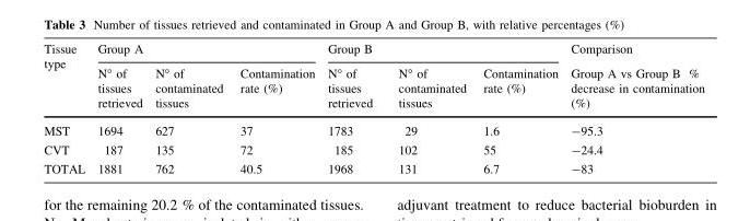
<table><thead><tr><td rowspan="2">Tissue type</td><td colspan="3">Group A</td><td colspan="3">Group B</td><td rowspan="2">Comparison Group A vs Group B % decrease in contamination (%)</td></tr><tr><td>N° of tissues retrieved</td><td>N° of contaminated tissues</td><td>Contamination rate (%)</td><td>N° of tissues retrieved</td><td>N° of contaminated tissues</td><td>Contamination rate (%)</td></tr></thead><tbody><tr><td>MST</td><td>1694</td><td>627</td><td>37</td><td>1783</td><td>29</td><td>1.6</td><td>-95.3</td></tr><tr><td>CVT</td><td>187</td><td>135</td><td>72</td><td>185</td><td>102</td><td>55</td><td>-24.4</td></tr><tr><td>TOTAL</td><td>1881</td><td>762</td><td>40.5</td><td>1968</td><td>131</td><td>6.7</td><td>-83</td></tr></tbody></table>